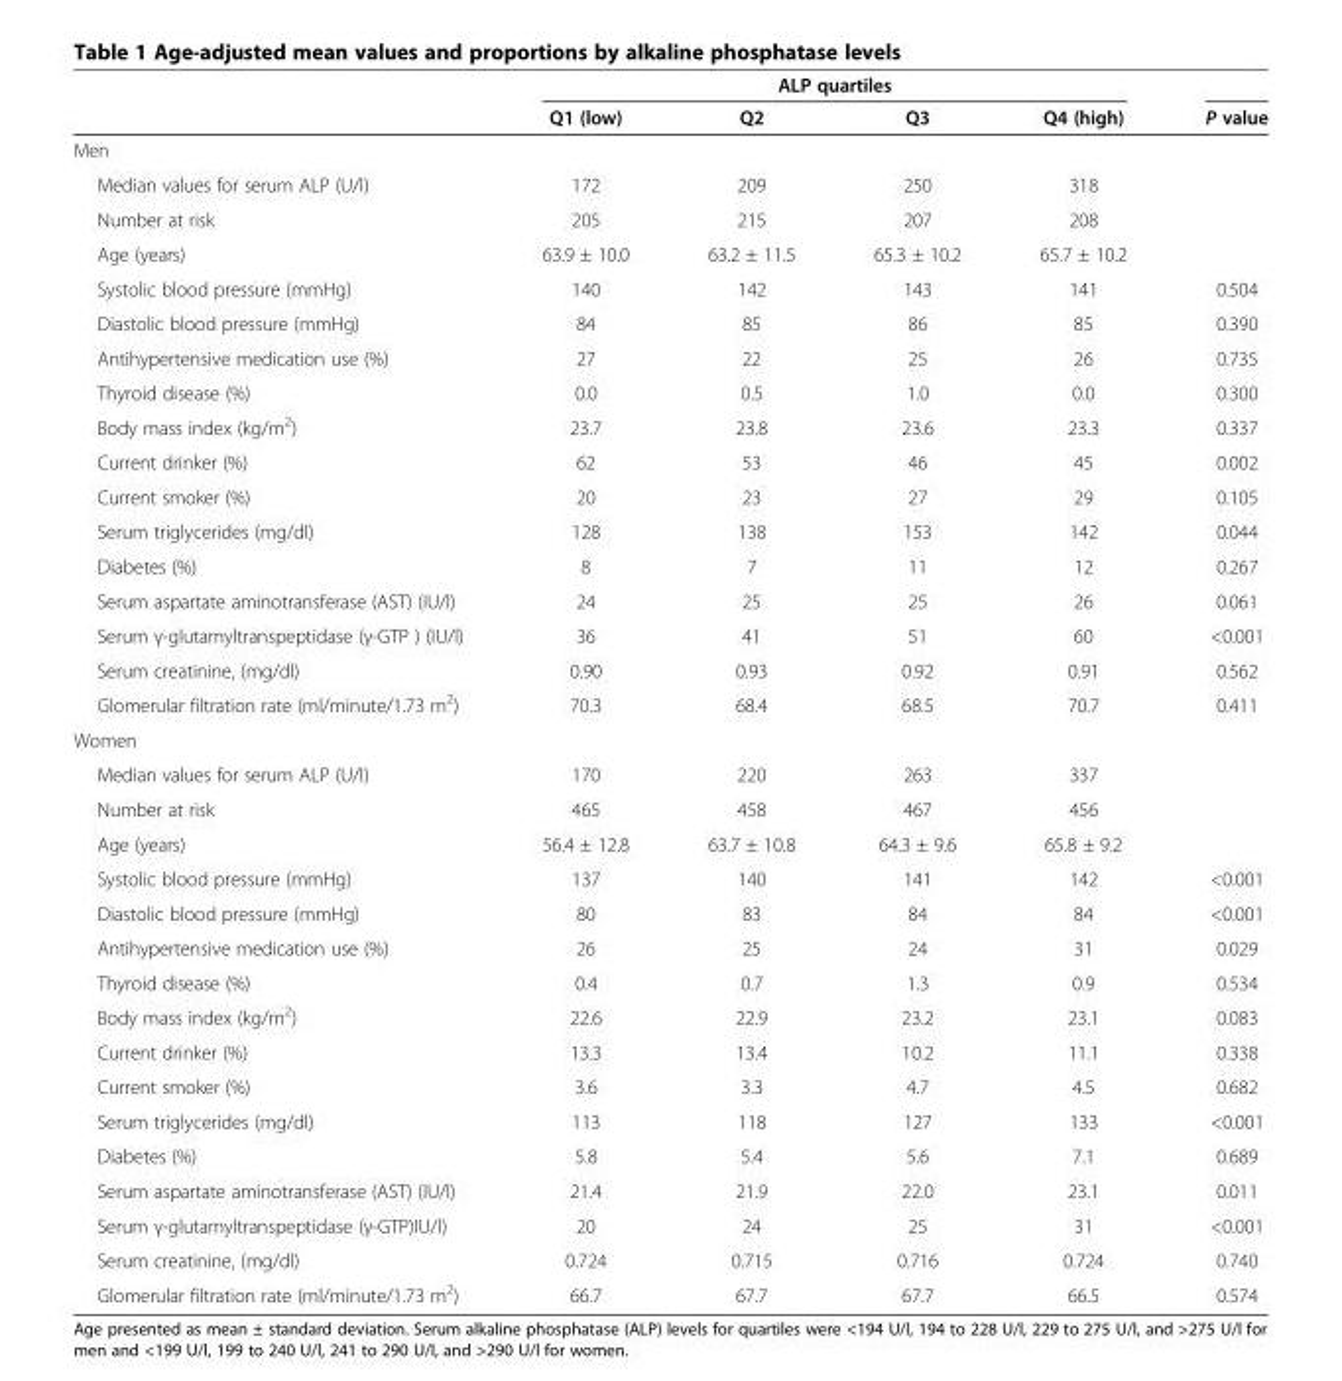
<table><thead><tr><td rowspan="2"></td><td colspan="4">ALP quartiles</td><td rowspan="2">P value</td></tr><tr><td>Q1 (low)</td><td>Q2</td><td>Q3</td><td>Q4 (high)</td></tr></thead><tbody><tr><td colspan="6">Men</td></tr><tr><td>Median values for serum ALP (U/l)</td><td>172</td><td>209</td><td>250</td><td>318</td><td></td></tr><tr><td>Number at risk</td><td>205</td><td>215</td><td>207</td><td>208</td><td></td></tr><tr><td>Age (years)</td><td>63.9 ± 10.0</td><td>63.2 ± 11.5</td><td>65.3 ± 10.2</td><td>65.7 ± 10.2</td><td></td></tr><tr><td>Systolic blood pressure (mmHg)</td><td>140</td><td>142</td><td>143</td><td>141</td><td>0.504</td></tr><tr><td>Diastolic blood pressure (mmHg)</td><td>84</td><td>85</td><td>86</td><td>85</td><td>0.390</td></tr><tr><td>Antihypertensive medication use (%)</td><td>27</td><td>22</td><td>25</td><td>26</td><td>0.735</td></tr><tr><td>Thyroid disease (%)</td><td>0.0</td><td>0.5</td><td>1.0</td><td>0.0</td><td>0.300</td></tr><tr><td>Body mass index (kg/m<sup>2</sup>)</td><td>23.7</td><td>23.8</td><td>23.6</td><td>23.3</td><td>0.337</td></tr><tr><td>Current drinker (%)</td><td>62</td><td>53</td><td>46</td><td>45</td><td>0.002</td></tr><tr><td>Current smoker (%)</td><td>20</td><td>23</td><td>27</td><td>29</td><td>0.105</td></tr><tr><td>Serum triglycerides (mg/dl)</td><td>128</td><td>138</td><td>153</td><td>142</td><td>0.044</td></tr><tr><td>Diabetes (%)</td><td>8</td><td>7</td><td>11</td><td>12</td><td>0.267</td></tr><tr><td>Serum aspartate aminotransferase (AST) (IU/l)</td><td>24</td><td>25</td><td>25</td><td>26</td><td>0.061</td></tr><tr><td>Serum γ-glutamyltranspeptidase (γ-GTP ) (IU/l)</td><td>36</td><td>41</td><td>51</td><td>60</td><td>&lt;0.001</td></tr><tr><td>Serum creatinine, (mg/dl)</td><td>0.90</td><td>0.93</td><td>0.92</td><td>0.91</td><td>0.562</td></tr><tr><td>Glomerular filtration rate (ml/minute/1.73 m<sup>2</sup>)</td><td>70.3</td><td>68.4</td><td>68.5</td><td>70.7</td><td>0.411</td></tr><tr><td colspan="6">Women</td></tr><tr><td>Median values for serum ALP (U/l)</td><td>170</td><td>220</td><td>263</td><td>337</td><td></td></tr><tr><td>Number at risk</td><td>465</td><td>458</td><td>467</td><td>456</td><td></td></tr><tr><td>Age (years)</td><td>56.4 ± 12.8</td><td>63.7 ± 10.8</td><td>64.3 ± 9.6</td><td>65.8 ± 9.2</td><td></td></tr><tr><td>Systolic blood pressure (mmHg)</td><td>137</td><td>140</td><td>141</td><td>142</td><td>&lt;0.001</td></tr><tr><td>Diastolic blood pressure (mmHg)</td><td>80</td><td>83</td><td>84</td><td>84</td><td>&lt;0.001</td></tr><tr><td>Antihypertensive medication use (%)</td><td>26</td><td>25</td><td>24</td><td>31</td><td>0.029</td></tr><tr><td>Thyroid disease (%)</td><td>0.4</td><td>0.7</td><td>1.3</td><td>0.9</td><td>0.534</td></tr><tr><td>Body mass index (kg/m<sup>2</sup>)</td><td>22.6</td><td>22.9</td><td>23.2</td><td>23.1</td><td>0.083</td></tr><tr><td>Current drinker (%)</td><td>13.3</td><td>13.4</td><td>10.2</td><td>11.1</td><td>0.338</td></tr><tr><td>Current smoker (%)</td><td>3.6</td><td>3.3</td><td>4.7</td><td>4.5</td><td>0.682</td></tr><tr><td>Serum triglycerides (mg/dl)</td><td>113</td><td>118</td><td>127</td><td>133</td><td>&lt;0.001</td></tr><tr><td>Diabetes (%)</td><td>5.8</td><td>5.4</td><td>5.6</td><td>7.1</td><td>0.689</td></tr><tr><td>Serum aspartate aminotransferase (AST) (IU/l)</td><td>21.4</td><td>21.9</td><td>22.0</td><td>23.1</td><td>0.011</td></tr><tr><td>Serum γ-glutamyltranspeptidase (γ-GTP)IU/l)</td><td>20</td><td>24</td><td>25</td><td>31</td><td>&lt;0.001</td></tr><tr><td>Serum creatinine, (mg/dl)</td><td>0.724</td><td>0.715</td><td>0.716</td><td>0.724</td><td>0.740</td></tr><tr><td>Glomerular filtration rate (ml/minute/1.73 m<sup>2</sup>)</td><td>66.7</td><td>67.7</td><td>67.7</td><td>66.5</td><td>0.574</td></tr></tbody></table>